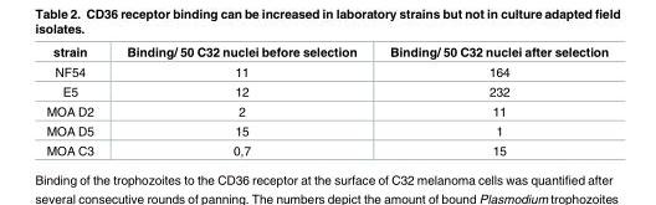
<table><thead><tr><td>strain</td><td>Binding/ 50 C32 nuclei before selection</td><td>Binding/ 50 C32 nuclei after selection</td></tr></thead><tbody><tr><td>NF54</td><td>11</td><td>164</td></tr><tr><td>E5</td><td>12</td><td>232</td></tr><tr><td>MOA D2</td><td>2</td><td>11</td></tr><tr><td>MOA D5</td><td>15</td><td>1</td></tr><tr><td>MOA C3</td><td>0,7</td><td>15</td></tr></tbody></table>